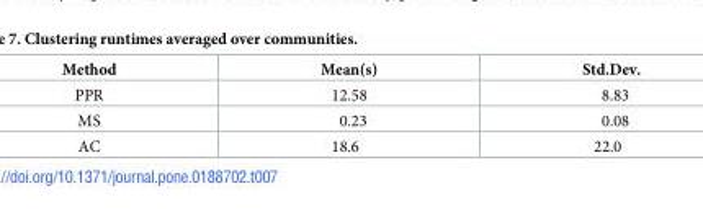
<table><thead><tr><td>Method</td><td>Mean(s)</td><td>Std.Dev.</td></tr></thead><tbody><tr><td>PPR</td><td>12.58</td><td>8.83</td></tr><tr><td>MS</td><td>0.23</td><td>0.08</td></tr><tr><td>AC</td><td>18.6</td><td>22.0</td></tr></tbody></table>